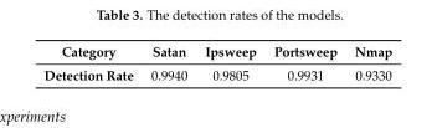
<table><thead><tr><td>Category</td><td>Satan</td><td>Ipsweep</td><td>Portsweep</td><td>Nmap</td></tr></thead><tbody><tr><td>Detection Rate</td><td>0.9940</td><td>0.9805</td><td>0.9931</td><td>0.9330</td></tr></tbody></table>